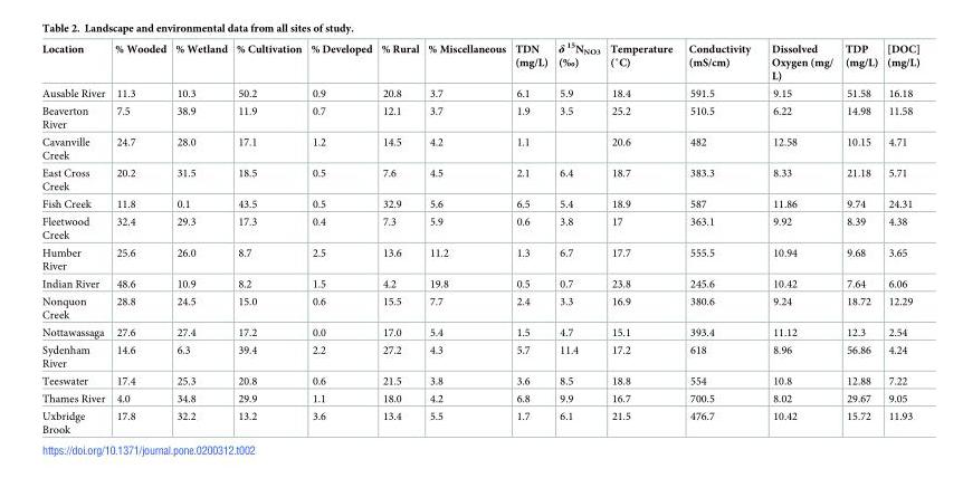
<table><thead><tr><td>Location</td><td>% Wooded</td><td>% Wetland</td><td>% Cultivation</td><td>% Developed</td><td>% Rural</td><td>% Miscellaneous</td><td>TDN (mg/L)</td><td>δ <sup>15</sup>N<sub>NO3</sub> (‰)</td><td>Temperature (˚C)</td><td>Conductivity (mS/cm)</td><td>Dissolved Oxygen (mg/ L)</td><td>TDP (mg/L)</td><td>[DOC] (mg/L)</td></tr></thead><tbody><tr><td>Ausable River</td><td>11.3</td><td>10.3</td><td>50.2</td><td>0.9</td><td>20.8</td><td>3.7</td><td>6.1</td><td>5.9</td><td>18.4</td><td>591.5</td><td>9.15</td><td>51.58</td><td>16.18</td></tr><tr><td>Beaverton River</td><td>7.5</td><td>38.9</td><td>11.9</td><td>0.7</td><td>12.1</td><td>3.7</td><td>1.9</td><td>3.5</td><td>25.2</td><td>510.5</td><td>6.22</td><td>14.98</td><td>11.58</td></tr><tr><td>Cavanville Creek</td><td>24.7</td><td>28.0</td><td>17.1</td><td>1.2</td><td>14.5</td><td>4.2</td><td>1.1</td><td></td><td>20.6</td><td>482</td><td>12.58</td><td>10.15</td><td>4.71</td></tr><tr><td>East Cross Creek</td><td>20.2</td><td>31.5</td><td>18.5</td><td>0.5</td><td>7.6</td><td>4.5</td><td>2.1</td><td>6.4</td><td>18.7</td><td>383.3</td><td>8.33</td><td>21.18</td><td>5.71</td></tr><tr><td>Fish Creek</td><td>11.8</td><td>0.1</td><td>43.5</td><td>0.5</td><td>32.9</td><td>5.6</td><td>6.5</td><td>5.4</td><td>18.9</td><td>587</td><td>11.86</td><td>9.74</td><td>24.31</td></tr><tr><td>Fleetwood Creek</td><td>32.4</td><td>29.3</td><td>17.3</td><td>0.4</td><td>7.3</td><td>5.9</td><td>0.6</td><td>3.8</td><td>17</td><td>363.1</td><td>9.92</td><td>8.39</td><td>4.38</td></tr><tr><td>Humber River</td><td>25.6</td><td>26.0</td><td>8.7</td><td>2.5</td><td>13.6</td><td>11.2</td><td>1.3</td><td>6.7</td><td>17.7</td><td>555.5</td><td>10.94</td><td>9.68</td><td>3.65</td></tr><tr><td>Indian River</td><td>48.6</td><td>10.9</td><td>8.2</td><td>1.5</td><td>4.2</td><td>19.8</td><td>0.5</td><td>0.7</td><td>23.8</td><td>245.6</td><td>10.42</td><td>7.64</td><td>6.06</td></tr><tr><td>Nonquon Creek</td><td>28.8</td><td>24.5</td><td>15.0</td><td>0.6</td><td>15.5</td><td>7.7</td><td>2.4</td><td>3.3</td><td>16.9</td><td>380.6</td><td>9.24</td><td>18.72</td><td>12.29</td></tr><tr><td>Nottawassaga</td><td>27.6</td><td>27.4</td><td>17.2</td><td>0.0</td><td>17.0</td><td>5.4</td><td>1.5</td><td>4.7</td><td>15.1</td><td>393.4</td><td>11.12</td><td>12.3</td><td>2.54</td></tr><tr><td>Sydenham River</td><td>14.6</td><td>6.3</td><td>39.4</td><td>2.2</td><td>27.2</td><td>4.3</td><td>5.7</td><td>11.4</td><td>17.2</td><td>618</td><td>8.96</td><td>56.86</td><td>4.24</td></tr><tr><td>Teeswater</td><td>17.4</td><td>25.3</td><td>20.8</td><td>0.6</td><td>21.5</td><td>3.8</td><td>3.6</td><td>8.5</td><td>18.8</td><td>554</td><td>10.8</td><td>12.88</td><td>7.22</td></tr><tr><td>Thames River</td><td>4.0</td><td>34.8</td><td>29.9</td><td>1.1</td><td>18.0</td><td>4.2</td><td>6.8</td><td>9.9</td><td>16.7</td><td>700.5</td><td>8.02</td><td>29.67</td><td>9.05</td></tr><tr><td>Uxbridge Brook</td><td>17.8</td><td>32.2</td><td>13.2</td><td>3.6</td><td>13.4</td><td>5.5</td><td>1.7</td><td>6.1</td><td>21.5</td><td>476.7</td><td>10.42</td><td>15.72</td><td>11.93</td></tr></tbody></table>